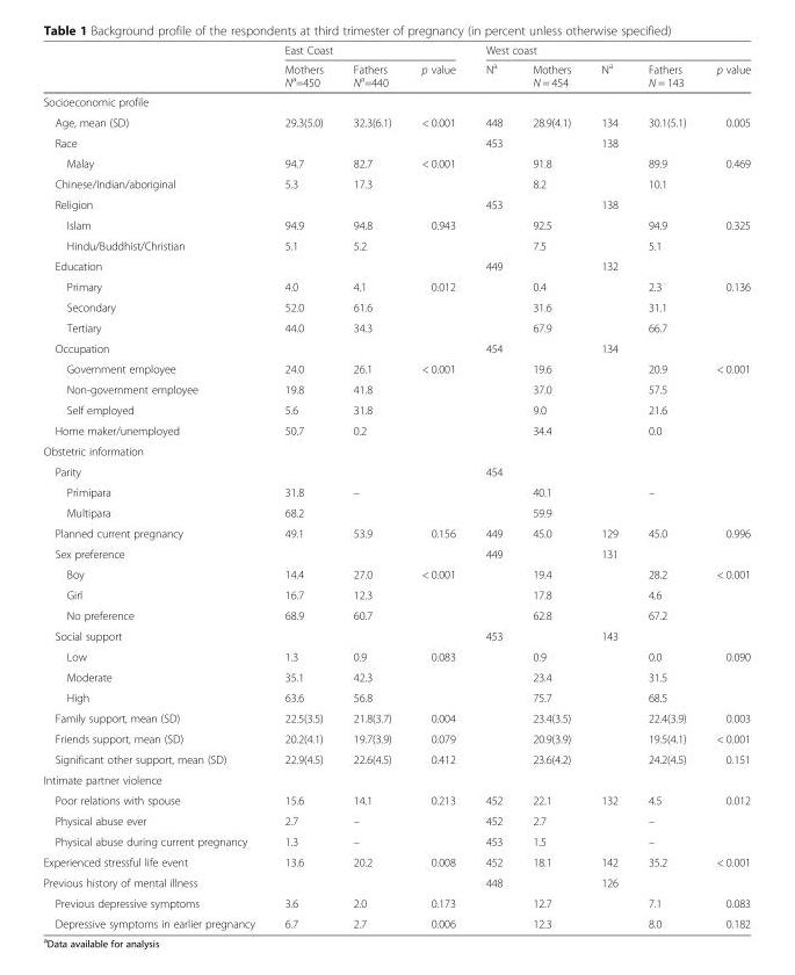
<table><thead><tr><td rowspan="2"></td><td colspan="3">East Coast</td><td colspan="5">West coast</td></tr><tr><td>Mothers N<sup>a</sup>=450</td><td>Fathers N<sup>a</sup>=440</td><td>p value</td><td>N<sup>a</sup></td><td>Mothers N = 454</td><td>N<sup>a</sup></td><td>Fathers N = 143</td><td>p value</td></tr></thead><tbody><tr><td colspan="9">Socioeconomic profile</td></tr><tr><td>Age, mean (SD)</td><td>29.3(5.0)</td><td>32.3(6.1)</td><td>&lt; 0.001</td><td>448</td><td>28.9(4.1)</td><td>134</td><td>30.1(5.1)</td><td>0.005</td></tr><tr><td>Race</td><td></td><td></td><td></td><td>453</td><td></td><td>138</td><td></td><td></td></tr><tr><td>Malay</td><td>94.7</td><td>82.7</td><td>&lt; 0.001</td><td></td><td>91.8</td><td></td><td>89.9</td><td>0.469</td></tr><tr><td>Chinese/Indian/aboriginal</td><td>5.3</td><td>17.3</td><td></td><td></td><td>8.2</td><td></td><td>10.1</td><td></td></tr><tr><td>Religion</td><td></td><td></td><td></td><td>453</td><td></td><td>138</td><td></td><td></td></tr><tr><td>Islam</td><td>94.9</td><td>94.8</td><td>0.943</td><td></td><td>92.5</td><td></td><td>94.9</td><td>0.325</td></tr><tr><td>Hindu/Buddhist/Christian</td><td>5.1</td><td>5.2</td><td></td><td></td><td>7.5</td><td></td><td>5.1</td><td></td></tr><tr><td>Education</td><td></td><td></td><td></td><td>449</td><td></td><td>132</td><td></td><td></td></tr><tr><td>Primary</td><td>4.0</td><td>4.1</td><td>0.012</td><td></td><td>0.4</td><td></td><td>2.3</td><td>0.136</td></tr><tr><td>Secondary</td><td>52.0</td><td>61.6</td><td></td><td></td><td>31.6</td><td></td><td>31.1</td><td></td></tr><tr><td>Tertiary</td><td>44.0</td><td>34.3</td><td></td><td></td><td>67.9</td><td></td><td>66.7</td><td></td></tr><tr><td>Occupation</td><td></td><td></td><td></td><td>454</td><td></td><td>134</td><td></td><td></td></tr><tr><td>Government employee</td><td>24.0</td><td>26.1</td><td>&lt; 0.001</td><td></td><td>19.6</td><td></td><td>20.9</td><td>&lt; 0.001</td></tr><tr><td>Non-government employee</td><td>19.8</td><td>41.8</td><td></td><td></td><td>37.0</td><td></td><td>57.5</td><td></td></tr><tr><td>Self employed</td><td>5.6</td><td>31.8</td><td></td><td></td><td>9.0</td><td></td><td>21.6</td><td></td></tr><tr><td>Home maker/unemployed</td><td>50.7</td><td>0.2</td><td></td><td></td><td>34.4</td><td></td><td>0.0</td><td></td></tr><tr><td colspan="9">Obstetric information</td></tr><tr><td>Parity</td><td></td><td></td><td></td><td>454</td><td></td><td></td><td></td><td></td></tr><tr><td>Primipara</td><td>31.8</td><td>–</td><td></td><td></td><td>40.1</td><td></td><td>–</td><td></td></tr><tr><td>Multipara</td><td>68.2</td><td></td><td></td><td></td><td>59.9</td><td></td><td></td><td></td></tr><tr><td>Planned current pregnancy</td><td>49.1</td><td>53.9</td><td>0.156</td><td>449</td><td>45.0</td><td>129</td><td>45.0</td><td>0.996</td></tr><tr><td>Sex preference</td><td></td><td></td><td></td><td>449</td><td></td><td>131</td><td></td><td></td></tr><tr><td>Boy</td><td>14.4</td><td>27.0</td><td>&lt; 0.001</td><td></td><td>19.4</td><td></td><td>28.2</td><td>&lt; 0.001</td></tr><tr><td>Girl</td><td>16.7</td><td>12.3</td><td></td><td></td><td>17.8</td><td></td><td>4.6</td><td></td></tr><tr><td>No preference</td><td>68.9</td><td>60.7</td><td></td><td></td><td>62.8</td><td></td><td>67.2</td><td></td></tr><tr><td>Social support</td><td></td><td></td><td></td><td>453</td><td></td><td>143</td><td></td><td></td></tr><tr><td>Low</td><td>1.3</td><td>0.9</td><td>0.083</td><td></td><td>0.9</td><td></td><td>0.0</td><td>0.090</td></tr><tr><td>Moderate</td><td>35.1</td><td>42.3</td><td></td><td></td><td>23.4</td><td></td><td>31.5</td><td></td></tr><tr><td>High</td><td>63.6</td><td>56.8</td><td></td><td></td><td>75.7</td><td></td><td>68.5</td><td></td></tr><tr><td>Family support, mean (SD)</td><td>22.5(3.5)</td><td>21.8(3.7)</td><td>0.004</td><td></td><td>23.4(3.5)</td><td></td><td>22.4(3.9)</td><td>0.003</td></tr><tr><td>Friends support, mean (SD)</td><td>20.2(4.1)</td><td>19.7(3.9)</td><td>0.079</td><td></td><td>20.9(3.9)</td><td></td><td>19.5(4.1)</td><td>&lt; 0.001</td></tr><tr><td>Significant other support, mean (SD)</td><td>22.9(4.5)</td><td>22.6(4.5)</td><td>0.412</td><td></td><td>23.6(4.2)</td><td></td><td>24.2(4.5)</td><td>0.151</td></tr><tr><td colspan="9">Intimate partner violence</td></tr><tr><td>Poor relations with spouse</td><td>15.6</td><td>14.1</td><td>0.213</td><td>452</td><td>22.1</td><td>132</td><td>4.5</td><td>0.012</td></tr><tr><td>Physical abuse ever</td><td>2.7</td><td>–</td><td></td><td>452</td><td>2.7</td><td></td><td>–</td><td></td></tr><tr><td>Physical abuse during current pregnancy</td><td>1.3</td><td>–</td><td></td><td>453</td><td>1.5</td><td></td><td>–</td><td></td></tr><tr><td>Experienced stressful life event</td><td>13.6</td><td>20.2</td><td>0.008</td><td>452</td><td>18.1</td><td>142</td><td>35.2</td><td>&lt; 0.001</td></tr><tr><td>Previous history of mental illness</td><td></td><td></td><td></td><td>448</td><td></td><td>126</td><td></td><td></td></tr><tr><td>Previous depressive symptoms</td><td>3.6</td><td>2.0</td><td>0.173</td><td></td><td>12.7</td><td></td><td>7.1</td><td>0.083</td></tr><tr><td>Depressive symptoms in earlier pregnancy</td><td>6.7</td><td>2.7</td><td>0.006</td><td></td><td>12.3</td><td></td><td>8.0</td><td>0.182</td></tr></tbody></table>